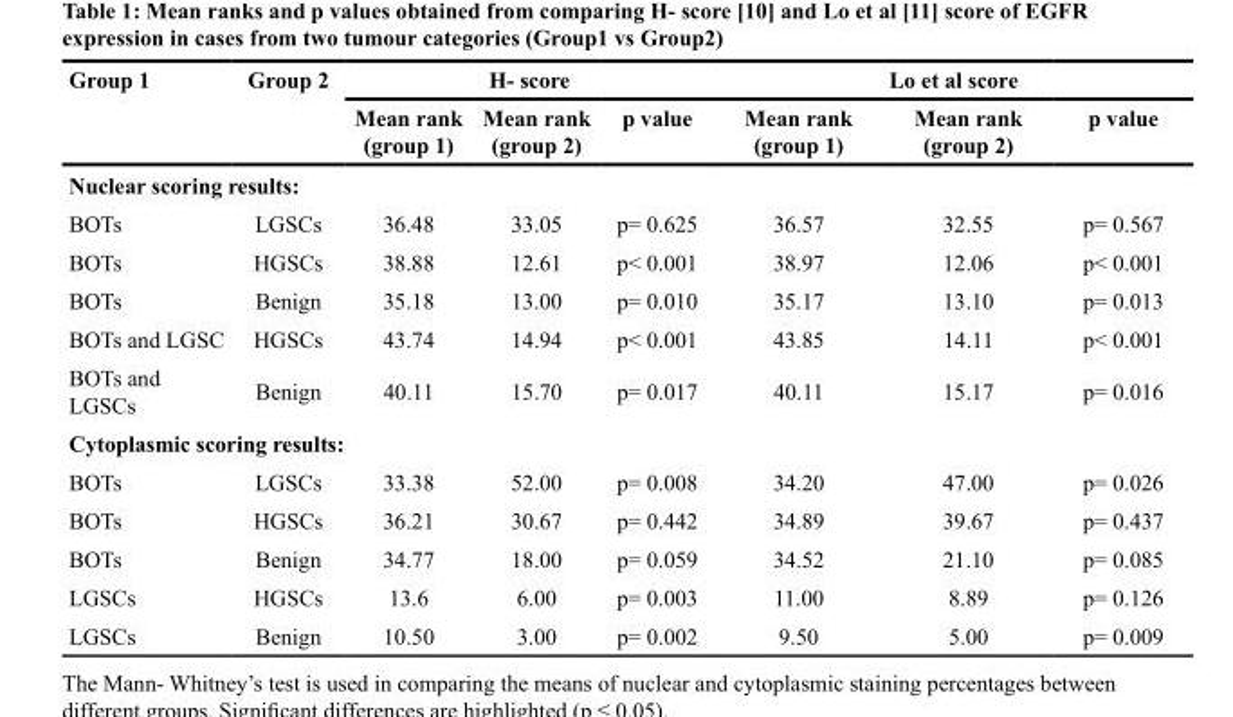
<table><thead><tr><td rowspan="2">Group 1</td><td rowspan="2">Group 2</td><td colspan="3">H- score</td><td colspan="3">Lo et al score</td></tr><tr><td>Mean rank (group 1)</td><td>Mean rank (group 2)</td><td>p value</td><td>Mean rank (group 1)</td><td>Mean rank (group 2)</td><td>p value</td></tr></thead><tbody><tr><td colspan="8">Nuclear scoring results:</td></tr><tr><td>BOTs</td><td>LGSCs</td><td>36.48</td><td>33.05</td><td>p= 0.625</td><td>36.57</td><td>32.55</td><td>p= 0.567</td></tr><tr><td>BOTs</td><td>HGSCs</td><td>38.88</td><td>12.61</td><td>p&lt; 0.001</td><td>38.97</td><td>12.06</td><td>p&lt; 0.001</td></tr><tr><td>BOTs</td><td>Benign</td><td>35.18</td><td>13.00</td><td>p= 0.010</td><td>35.17</td><td>13.10</td><td>p= 0.013</td></tr><tr><td>BOTs and LGSC</td><td>HGSCs</td><td>43.74</td><td>14.94</td><td>p&lt; 0.001</td><td>43.85</td><td>14.11</td><td>p&lt; 0.001</td></tr><tr><td>BOTs and LGSCs</td><td>Benign</td><td>40.11</td><td>15.70</td><td>p= 0.017</td><td>40.11</td><td>15.17</td><td>p= 0.016</td></tr><tr><td colspan="8">Cytoplasmic scoring results:</td></tr><tr><td>BOTs</td><td>LGSCs</td><td>33.38</td><td>52.00</td><td>p= 0.008</td><td>34.20</td><td>47.00</td><td>p= 0.026</td></tr><tr><td>BOTs</td><td>HGSCs</td><td>36.21</td><td>30.67</td><td>p= 0.442</td><td>34.89</td><td>39.67</td><td>p= 0.437</td></tr><tr><td>BOTs</td><td>Benign</td><td>34.77</td><td>18.00</td><td>p= 0.059</td><td>34.52</td><td>21.10</td><td>p= 0.085</td></tr><tr><td>LGSCs</td><td>HGSCs</td><td>13.6</td><td>6.00</td><td>p= 0.003</td><td>11.00</td><td>8.89</td><td>p= 0.126</td></tr><tr><td>LGSCs</td><td>Benign</td><td>10.50</td><td>3.00</td><td>p= 0.002</td><td>9.50</td><td>5.00</td><td>p= 0.009</td></tr></tbody></table>